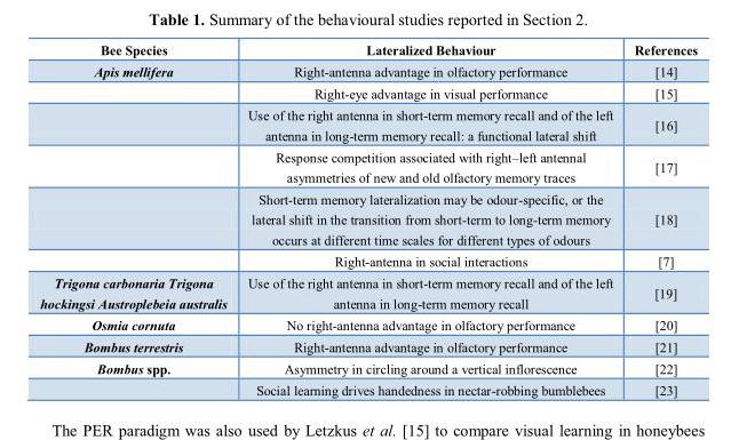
<table><thead><tr><td>Bee Species</td><td>Lateralized Behaviour</td><td>References</td></tr></thead><tbody><tr><td rowspan="6">Apis mellifera</td><td>Right-antenna advantage in olfactory performance</td><td>[14]</td></tr><tr><td>Right-eye advantage in visual performance</td><td>[15]</td></tr><tr><td>Use of the right antenna in short-term memory recall and of the left antenna in long-term memory recall: a functional lateral shift</td><td>[16]</td></tr><tr><td>Response competition associated with right–left antennal asymmetries of new and old olfactory memory traces</td><td>[17]</td></tr><tr><td>Short-term memory lateralization may be odour-specific, or the lateral shift in the transition from short-term to long-term memory occurs at different time scales for different types of odours</td><td>[18]</td></tr><tr><td>Right-antenna in social interactions</td><td>[7]</td></tr><tr><td>Trigona carbonaria Trigona hockingsi Austroplebeia australis</td><td>Use of the right antenna in short-term memory recall and of the left antenna in long-term memory recall</td><td>[19]</td></tr><tr><td>Osmia cornuta</td><td>No right-antenna advantage in olfactory performance</td><td>[20]</td></tr><tr><td>Bombus terrestris</td><td>Right-antenna advantage in olfactory performance</td><td>[21]</td></tr><tr><td rowspan="2">Bombus spp.</td><td>Asymmetry in circling around a vertical inflorescence</td><td>[22]</td></tr><tr><td>Social learning drives handedness in nectar-robbing bumblebees</td><td>[23]</td></tr></tbody></table>